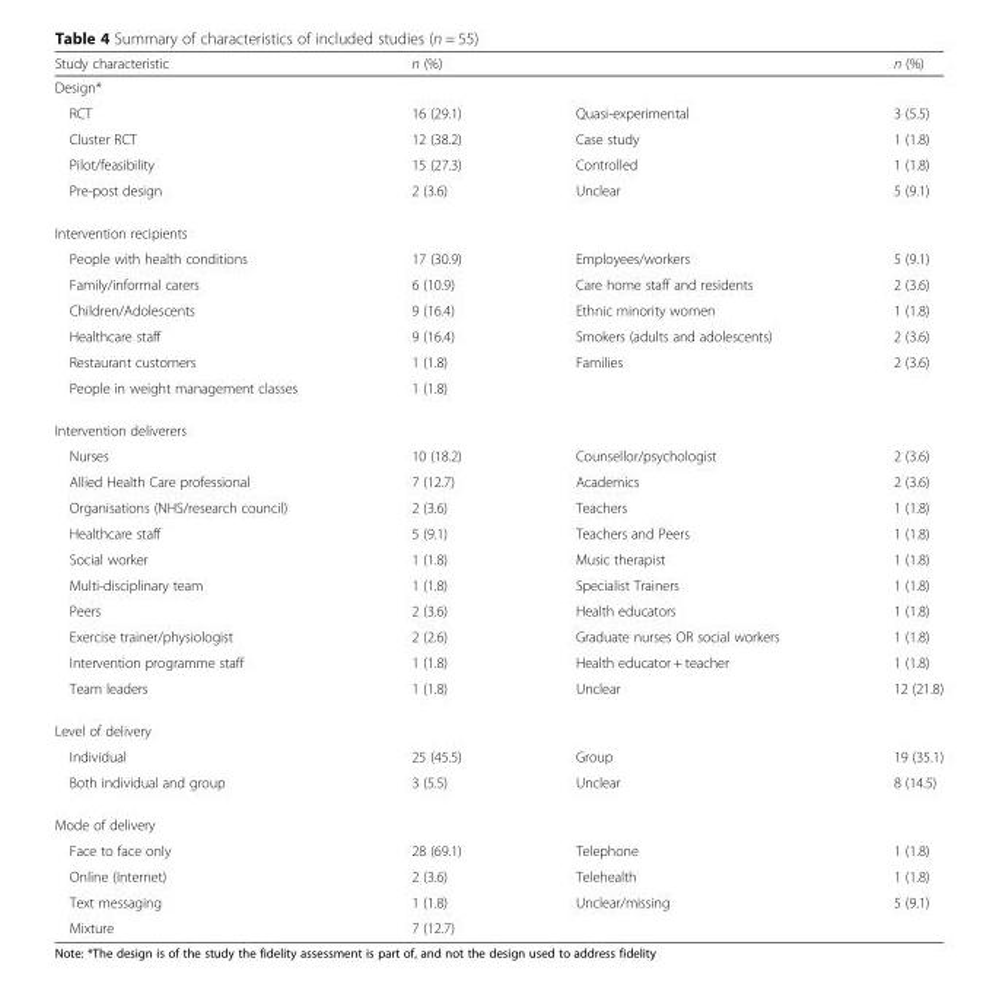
<table><thead><tr><td>Study characteristic</td><td colspan="2">n (%)</td><td>n (%)</td></tr><tr><td colspan="4">Design*</td></tr><tr><td>RCT</td><td>16 (29.1)</td><td>Quasi-experimental</td><td>3 (5.5)</td></tr></thead><tbody><tr><td>Cluster RCT</td><td>12 (38.2)</td><td>Case study</td><td>1 (1.8)</td></tr><tr><td>Pilot/feasibility</td><td>15 (27.3)</td><td>Controlled</td><td>1 (1.8)</td></tr><tr><td>Pre-post design</td><td>2 (3.6)</td><td>Unclear</td><td>5 (9.1)</td></tr><tr><td colspan="4">Intervention recipients</td></tr><tr><td>People with health conditions</td><td>17 (30.9)</td><td>Employees/workers</td><td>5 (9.1)</td></tr><tr><td>Family/informal carers</td><td>6 (10.9)</td><td>Care home staff and residents</td><td>2 (3.6)</td></tr><tr><td>Children/Adolescents</td><td>9 (16.4)</td><td>Ethnic minority women</td><td>1 (1.8)</td></tr><tr><td>Healthcare staff</td><td>9 (16.4)</td><td>Smokers (adults and adolescents)</td><td>2 (3.6)</td></tr><tr><td>Restaurant customers</td><td>1 (1.8)</td><td>Families</td><td>2 (3.6)</td></tr><tr><td>People in weight management classes</td><td>1 (1.8)</td><td></td><td></td></tr><tr><td colspan="4">Intervention deliverers</td></tr><tr><td>Nurses</td><td>10 (18.2)</td><td>Counsellor/psychologist</td><td>2 (3.6)</td></tr><tr><td>Allied Health Care professional</td><td>7 (12.7)</td><td>Academics</td><td>2 (3.6)</td></tr><tr><td>Organisations (NHS/research council)</td><td>2 (3.6)</td><td>Teachers</td><td>1 (1.8)</td></tr><tr><td>Healthcare staff</td><td>5 (9.1)</td><td>Teachers and Peers</td><td>1 (1.8)</td></tr><tr><td>Social worker</td><td>1 (1.8)</td><td>Music therapist</td><td>1 (1.8)</td></tr><tr><td>Multi-disciplinary team</td><td>1 (1.8)</td><td>Specialist Trainers</td><td>1 (1.8)</td></tr><tr><td>Peers</td><td>2 (3.6)</td><td>Health educators</td><td>1 (1.8)</td></tr><tr><td>Exercise trainer/physiologist</td><td>2 (2.6)</td><td>Graduate nurses OR social workers</td><td>1 (1.8)</td></tr><tr><td>Intervention programme staff</td><td>1 (1.8)</td><td>Health educator + teacher</td><td>1 (1.8)</td></tr><tr><td>Team leaders</td><td>1 (1.8)</td><td>Unclear</td><td>12 (21.8)</td></tr><tr><td colspan="4">Level of delivery</td></tr><tr><td>Individual</td><td>25 (45.5)</td><td>Group</td><td>19 (35.1)</td></tr><tr><td>Both individual and group</td><td>3 (5.5)</td><td>Unclear</td><td>8 (14.5)</td></tr><tr><td colspan="4">Mode of delivery</td></tr><tr><td>Face to face only</td><td>28 (69.1)</td><td>Telephone</td><td>1 (1.8)</td></tr><tr><td>Online (Internet)</td><td>2 (3.6)</td><td>Telehealth</td><td>1 (1.8)</td></tr><tr><td>Text messaging</td><td>1 (1.8)</td><td>Unclear/missing</td><td>5 (9.1)</td></tr><tr><td>Mixture</td><td>7 (12.7)</td><td></td><td></td></tr></tbody></table>